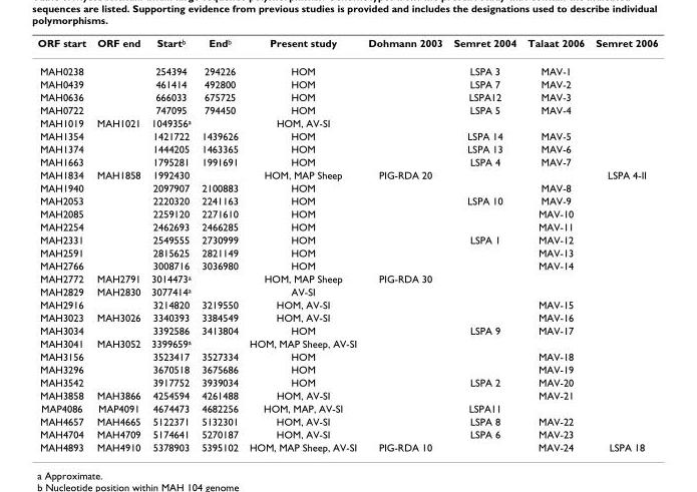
<table><thead><tr><td>ORF start</td><td>ORF end</td><td>Start<sup>b</sup></td><td>End<sup>b</sup></td><td>Present study</td><td>Dohmann 2003</td><td>Semret 2004</td><td>Talaat 2006</td><td>Semret 2006</td></tr></thead><tbody><tr><td>MAH0238</td><td></td><td>254394</td><td>294226</td><td>HOM</td><td></td><td>LSPA 3</td><td>MAV-1</td><td></td></tr><tr><td>MAH0439</td><td></td><td>461414</td><td>492800</td><td>HOM</td><td></td><td>LSPA 7</td><td>MAV-2</td><td></td></tr><tr><td>MAH0636</td><td></td><td>666033</td><td>675725</td><td>HOM</td><td></td><td>LSPA12</td><td>MAV-3</td><td></td></tr><tr><td>MAH0722</td><td></td><td>747095</td><td>794450</td><td>HOM</td><td></td><td>LSPA 5</td><td>MAV-4</td><td></td></tr><tr><td>MAH1019</td><td>MAH1021</td><td>1049356<sup>a</sup></td><td></td><td>HOM, AV-SI</td><td></td><td></td><td></td><td></td></tr><tr><td>MAH1354</td><td></td><td>1421722</td><td>1439626</td><td>HOM</td><td></td><td>LSPA 14</td><td>MAV-5</td><td></td></tr><tr><td>MAH1374</td><td></td><td>1444205</td><td>1463365</td><td>HOM</td><td></td><td>LSPA 13</td><td>MAV-6</td><td></td></tr><tr><td>MAH1663</td><td></td><td>1795281</td><td>1991691</td><td>HOM</td><td></td><td>LSPA 4</td><td>MAV-7</td><td></td></tr><tr><td>MAH1834</td><td>MAH1858</td><td>1992430</td><td></td><td>HOM, MAP Sheep</td><td>PIG-RDA 20</td><td></td><td></td><td>LSPA 4-II</td></tr><tr><td>MAH1940</td><td></td><td>2097907</td><td>2100883</td><td>HOM</td><td></td><td></td><td>MAV-8</td><td></td></tr><tr><td>MAH2053</td><td></td><td>2220320</td><td>2241163</td><td>HOM</td><td></td><td>LSPA 10</td><td>MAV-9</td><td></td></tr><tr><td>MAH2085</td><td></td><td>2259120</td><td>2271610</td><td>HOM</td><td></td><td></td><td>MAV-10</td><td></td></tr><tr><td>MAH2254</td><td></td><td>2462693</td><td>2466285</td><td>HOM</td><td></td><td></td><td>MAV-11</td><td></td></tr><tr><td>MAH2331</td><td></td><td>2549555</td><td>2730999</td><td>HOM</td><td></td><td>LSPA 1</td><td>MAV-12</td><td></td></tr><tr><td>MAH2591</td><td></td><td>2815625</td><td>2821149</td><td>HOM</td><td></td><td></td><td>MAV-13</td><td></td></tr><tr><td>MAH2766</td><td></td><td>3008716</td><td>3036980</td><td>HOM</td><td></td><td></td><td>MAV-14</td><td></td></tr><tr><td>MAH2772</td><td>MAH2791</td><td>3014473<sup>a</sup></td><td></td><td>HOM, MAP Sheep</td><td>PIG-RDA 30</td><td></td><td></td><td></td></tr><tr><td>MAH2829</td><td>MAH2830</td><td>3077414<sup>a</sup></td><td></td><td>AV-SI</td><td></td><td></td><td></td><td></td></tr><tr><td>MAH2916</td><td></td><td>3214820</td><td>3219550</td><td>HOM, AV-SI</td><td></td><td></td><td>MAV-15</td><td></td></tr><tr><td>MAH3023</td><td>MAH3026</td><td>3340393</td><td>3384549</td><td>HOM, AV-SI</td><td></td><td></td><td>MAV-16</td><td></td></tr><tr><td>MAH3034</td><td></td><td>3392586</td><td>3413804</td><td>HOM</td><td></td><td>LSPA 9</td><td>MAV-17</td><td></td></tr><tr><td>MAH3041</td><td>MAH3052</td><td>3399659<sup>a</sup></td><td></td><td>HOM, MAP Sheep, AV-SI</td><td></td><td></td><td></td><td></td></tr><tr><td>MAH3156</td><td></td><td>3523417</td><td>3527334</td><td>HOM</td><td></td><td></td><td>MAV-18</td><td></td></tr><tr><td>MAH3296</td><td></td><td>3670518</td><td>3675686</td><td>HOM</td><td></td><td></td><td>MAV-19</td><td></td></tr><tr><td>MAH3542</td><td></td><td>3917752</td><td>3939034</td><td>HOM</td><td></td><td>LSPA 2</td><td>MAV-20</td><td></td></tr><tr><td>MAH3858</td><td>MAH3866</td><td>4254594</td><td>4261488</td><td>HOM, AV-SI</td><td></td><td></td><td>MAV-21</td><td></td></tr><tr><td>MAP4086</td><td>MAP4091</td><td>4674473</td><td>4682256</td><td>HOM, MAP, AV-SI</td><td></td><td>LSPA11</td><td></td><td></td></tr><tr><td>MAH4657</td><td>MAH4665</td><td>5122371</td><td>5132301</td><td>HOM, AV-SI</td><td></td><td>LSPA 8</td><td>MAV-22</td><td></td></tr><tr><td>MAH4704</td><td>MAH4709</td><td>5174641</td><td>5270187</td><td>HOM, AV-SI</td><td></td><td>LSPA 6</td><td>MAV-23</td><td></td></tr><tr><td>MAH4893</td><td>MAH4910</td><td>5378903</td><td>5395102</td><td>HOM, MAP Sheep, AV-SI</td><td>PIG-RDA 10</td><td></td><td>MAV-24</td><td>LSPA 18</td></tr></tbody></table>